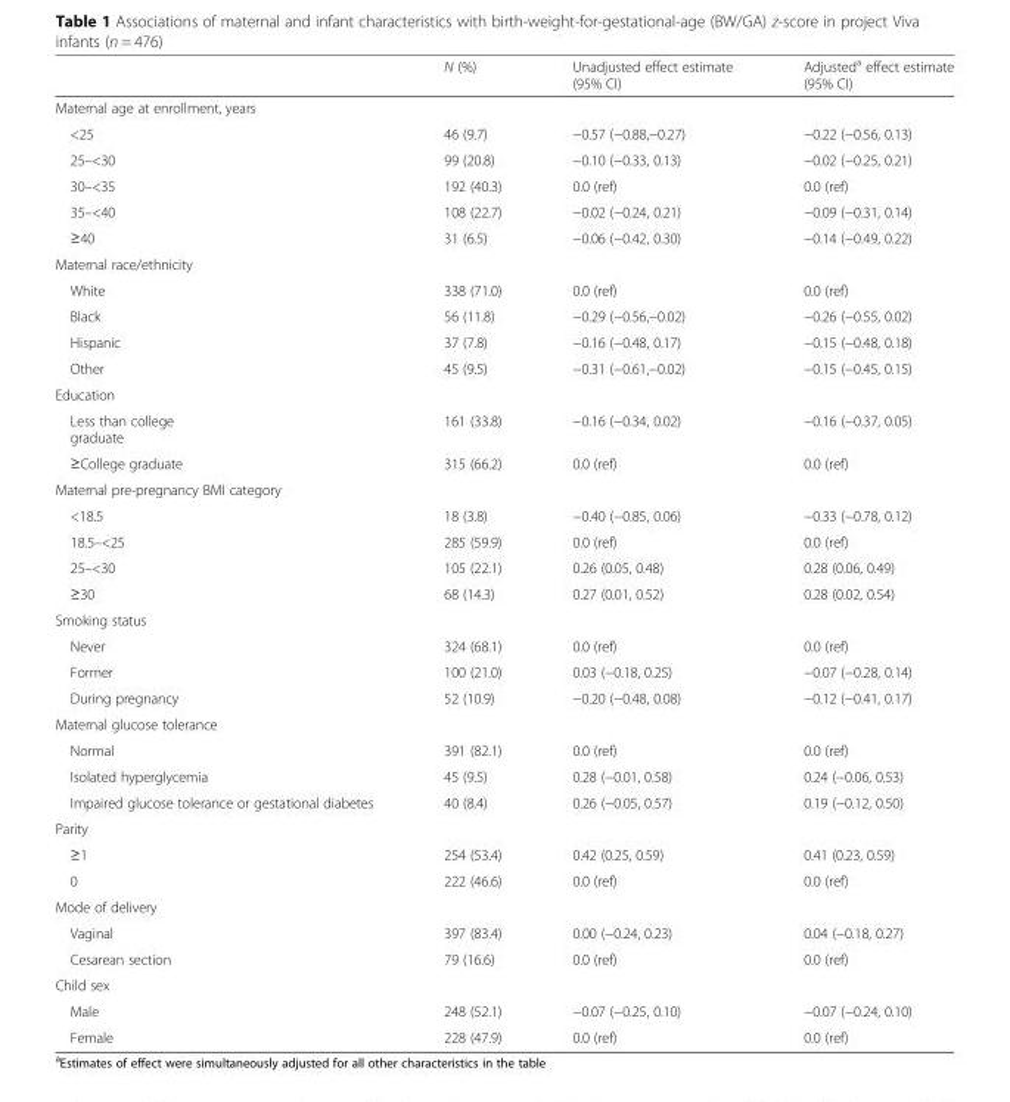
<table><thead><tr><td></td><td>N (%)</td><td>Unadjusted effect estimate (95% CI)</td><td>Adjusted<sup>a</sup> effect estimate (95% CI)</td></tr></thead><tbody><tr><td colspan="4">Maternal age at enrollment, years</td></tr><tr><td>&lt;25</td><td>46 (9.7)</td><td>−0.57 (−0.88,−0.27)</td><td>−0.22 (−0.56, 0.13)</td></tr><tr><td>25–&lt;30</td><td>99 (20.8)</td><td>−0.10 (−0.33, 0.13)</td><td>−0.02 (−0.25, 0.21)</td></tr><tr><td>30–&lt;35</td><td>192 (40.3)</td><td>0.0 (ref)</td><td>0.0 (ref)</td></tr><tr><td>35–&lt;40</td><td>108 (22.7)</td><td>−0.02 (−0.24, 0.21)</td><td>−0.09 (−0.31, 0.14)</td></tr><tr><td>≥40</td><td>31 (6.5)</td><td>−0.06 (−0.42, 0.30)</td><td>−0.14 (−0.49, 0.22)</td></tr><tr><td colspan="4">Maternal race/ethnicity</td></tr><tr><td>White</td><td>338 (71.0)</td><td>0.0 (ref)</td><td>0.0 (ref)</td></tr><tr><td>Black</td><td>56 (11.8)</td><td>−0.29 (−0.56,−0.02)</td><td>−0.26 (−0.55, 0.02)</td></tr><tr><td>Hispanic</td><td>37 (7.8)</td><td>−0.16 (−0.48, 0.17)</td><td>−0.15 (−0.48, 0.18)</td></tr><tr><td>Other</td><td>45 (9.5)</td><td>−0.31 (−0.61,−0.02)</td><td>−0.15 (−0.45, 0.15)</td></tr><tr><td colspan="4">Education</td></tr><tr><td>Less than college graduate</td><td>161 (33.8)</td><td>−0.16 (−0.34, 0.02)</td><td>−0.16 (−0.37, 0.05)</td></tr><tr><td>≥College graduate</td><td>315 (66.2)</td><td>0.0 (ref)</td><td>0.0 (ref)</td></tr><tr><td colspan="4">Maternal pre-pregnancy BMI category</td></tr><tr><td>&lt;18.5</td><td>18 (3.8)</td><td>−0.40 (−0.85, 0.06)</td><td>−0.33 (−0.78, 0.12)</td></tr><tr><td>18.5–&lt;25</td><td>285 (59.9)</td><td>0.0 (ref)</td><td>0.0 (ref)</td></tr><tr><td>25–&lt;30</td><td>105 (22.1)</td><td>0.26 (0.05, 0.48)</td><td>0.28 (0.06, 0.49)</td></tr><tr><td>≥30</td><td>68 (14.3)</td><td>0.27 (0.01, 0.52)</td><td>0.28 (0.02, 0.54)</td></tr><tr><td colspan="4">Smoking status</td></tr><tr><td>Never</td><td>324 (68.1)</td><td>0.0 (ref)</td><td>0.0 (ref)</td></tr><tr><td>Former</td><td>100 (21.0)</td><td>0.03 (−0.18, 0.25)</td><td>−0.07 (−0.28, 0.14)</td></tr><tr><td>During pregnancy</td><td>52 (10.9)</td><td>−0.20 (−0.48, 0.08)</td><td>−0.12 (−0.41, 0.17)</td></tr><tr><td colspan="4">Maternal glucose tolerance</td></tr><tr><td>Normal</td><td>391 (82.1)</td><td>0.0 (ref)</td><td>0.0 (ref)</td></tr><tr><td>Isolated hyperglycemia</td><td>45 (9.5)</td><td>0.28 (−0.01, 0.58)</td><td>0.24 (−0.06, 0.53)</td></tr><tr><td>Impaired glucose tolerance or gestational diabetes</td><td>40 (8.4)</td><td>0.26 (−0.05, 0.57)</td><td>0.19 (−0.12, 0.50)</td></tr><tr><td colspan="4">Parity</td></tr><tr><td>≥1</td><td>254 (53.4)</td><td>0.42 (0.25, 0.59)</td><td>0.41 (0.23, 0.59)</td></tr><tr><td>0</td><td>222 (46.6)</td><td>0.0 (ref)</td><td>0.0 (ref)</td></tr><tr><td colspan="4">Mode of delivery</td></tr><tr><td>Vaginal</td><td>397 (83.4)</td><td>0.00 (−0.24, 0.23)</td><td>0.04 (−0.18, 0.27)</td></tr><tr><td>Cesarean section</td><td>79 (16.6)</td><td>0.0 (ref)</td><td>0.0 (ref)</td></tr><tr><td colspan="4">Child sex</td></tr><tr><td>Male</td><td>248 (52.1)</td><td>−0.07 (−0.25, 0.10)</td><td>−0.07 (−0.24, 0.10)</td></tr><tr><td>Female</td><td>228 (47.9)</td><td>0.0 (ref)</td><td>0.0 (ref)</td></tr></tbody></table>